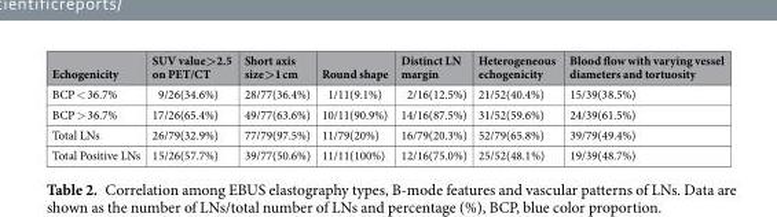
<table><thead><tr><td>Echogenicity</td><td>SUV value&gt;2.5 on PET/CT</td><td>Short axis size&gt;1 cm</td><td>Round shape</td><td>Distinct LN margin</td><td>Heterogeneous echogenicity</td><td>Blood flow with varying vessel diameters and tortuosity</td></tr></thead><tbody><tr><td>BCP &lt; 36.7%</td><td>9/26(34.6%)</td><td>28/77(36.4%)</td><td>1/11(9.1%)</td><td>2/16(12.5%)</td><td>21/52(40.4%)</td><td>15/39(38.5%)</td></tr><tr><td>BCP &gt; 36.7%</td><td>17/26(65.4%)</td><td>49/77(63.6%)</td><td>10/11(90.9%)</td><td>14/16(87.5%)</td><td>31/52(59.6%)</td><td>24/39(61.5%)</td></tr><tr><td>Total LNs</td><td>26/79(32.9%)</td><td>77/79(97.5%)</td><td>11/79(20%)</td><td>16/79(20.3%)</td><td>52/79(65.8%)</td><td>39/79(49.4%)</td></tr><tr><td>Total Positive LNs</td><td>15/26(57.7%)</td><td>39/77(50.6%)</td><td>11/11(100%)</td><td>12/16(75.0%)</td><td>25/52(48.1%)</td><td>19/39(48.7%)</td></tr></tbody></table>